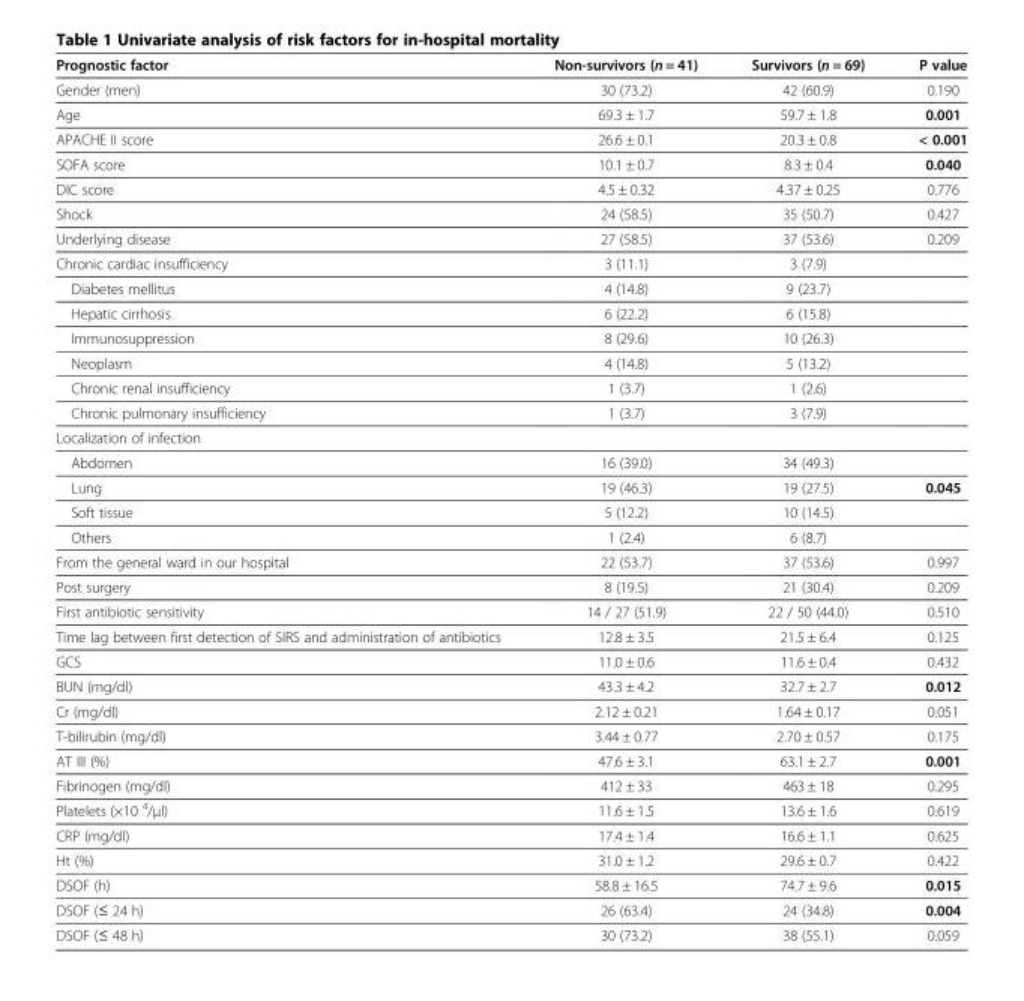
<table><thead><tr><td>Prognostic factor</td><td>Non-survivors (n = 41)</td><td>Survivors (n = 69)</td><td>P value</td></tr></thead><tbody><tr><td>Gender (men)</td><td>30 (73.2)</td><td>42 (60.9)</td><td>0.190</td></tr><tr><td>Age</td><td>69.3 ± 1.7</td><td>59.7 ± 1.8</td><td>0.001</td></tr><tr><td>APACHE II score</td><td>26.6 ± 0.1</td><td>20.3 ± 0.8</td><td>&lt; 0.001</td></tr><tr><td>SOFA score</td><td>10.1 ± 0.7</td><td>8.3 ± 0.4</td><td>0.040</td></tr><tr><td>DIC score</td><td>4.5 ± 0.32</td><td>4.37 ± 0.25</td><td>0.776</td></tr><tr><td>Shock</td><td>24 (58.5)</td><td>35 (50.7)</td><td>0.427</td></tr><tr><td>Underlying disease</td><td>27 (58.5)</td><td>37 (53.6)</td><td>0.209</td></tr><tr><td>Chronic cardiac insufficiency</td><td>3 (11.1)</td><td>3 (7.9)</td><td></td></tr><tr><td>Diabetes mellitus</td><td>4 (14.8)</td><td>9 (23.7)</td><td></td></tr><tr><td>Hepatic cirrhosis</td><td>6 (22.2)</td><td>6 (15.8)</td><td></td></tr><tr><td>Immunosuppression</td><td>8 (29.6)</td><td>10 (26.3)</td><td></td></tr><tr><td>Neoplasm</td><td>4 (14.8)</td><td>5 (13.2)</td><td></td></tr><tr><td>Chronic renal insufficiency</td><td>1 (3.7)</td><td>1 (2.6)</td><td></td></tr><tr><td>Chronic pulmonary insufficiency</td><td>1 (3.7)</td><td>3 (7.9)</td><td></td></tr><tr><td colspan="4">Localization of infection</td></tr><tr><td>Abdomen</td><td>16 (39.0)</td><td>34 (49.3)</td><td></td></tr><tr><td>Lung</td><td>19 (46.3)</td><td>19 (27.5)</td><td>0.045</td></tr><tr><td>Soft tissue</td><td>5 (12.2)</td><td>10 (14.5)</td><td></td></tr><tr><td>Others</td><td>1 (2.4)</td><td>6 (8.7)</td><td></td></tr><tr><td>From the general ward in our hospital</td><td>22 (53.7)</td><td>37 (53.6)</td><td>0.997</td></tr><tr><td>Post surgery</td><td>8 (19.5)</td><td>21 (30.4)</td><td>0.209</td></tr><tr><td>First antibiotic sensitivity</td><td>14 / 27 (51.9)</td><td>22 / 50 (44.0)</td><td>0.510</td></tr><tr><td>Time lag between first detection of SIRS and administration of antibiotics</td><td>12.8 ± 3.5</td><td>21.5 ± 6.4</td><td>0.125</td></tr><tr><td>GCS</td><td>11.0 ± 0.6</td><td>11.6 ± 0.4</td><td>0.432</td></tr><tr><td>BUN (mg/dl)</td><td>43.3 ± 4.2</td><td>32.7 ± 2.7</td><td>0.012</td></tr><tr><td>Cr (mg/dl)</td><td>2.12 ± 0.21</td><td>1.64 ± 0.17</td><td>0.051</td></tr><tr><td>T-bilirubin (mg/dl)</td><td>3.44 ± 0.77</td><td>2.70 ± 0.57</td><td>0.175</td></tr><tr><td>AT III (%)</td><td>47.6 ± 3.1</td><td>63.1 ± 2.7</td><td>0.001</td></tr><tr><td>Fibrinogen (mg/dl)</td><td>412 ± 33</td><td>463 ± 18</td><td>0.295</td></tr><tr><td>Platelets (×10 <sup>4</sup>/μl)</td><td>11.6 ± 1.5</td><td>13.6 ± 1.6</td><td>0.619</td></tr><tr><td>CRP (mg/dl)</td><td>17.4 ± 1.4</td><td>16.6 ± 1.1</td><td>0.625</td></tr><tr><td>Ht (%)</td><td>31.0 ± 1.2</td><td>29.6 ± 0.7</td><td>0.422</td></tr><tr><td>DSOF (h)</td><td>58.8 ± 16.5</td><td>74.7 ± 9.6</td><td>0.015</td></tr><tr><td>DSOF (≤ 24 h)</td><td>26 (63.4)</td><td>24 (34.8)</td><td>0.004</td></tr><tr><td>DSOF (≤ 48 h)</td><td>30 (73.2)</td><td>38 (55.1)</td><td>0.059</td></tr></tbody></table>